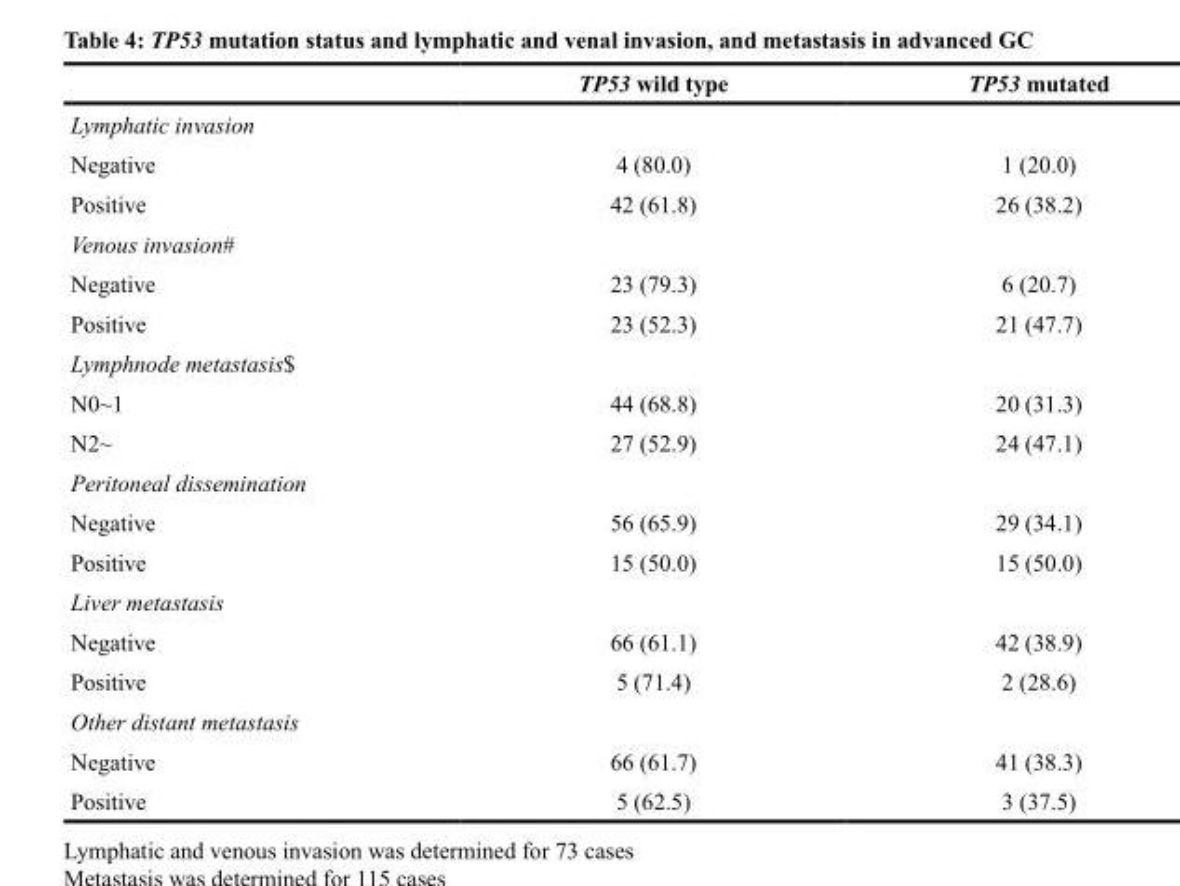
<table><thead><tr><td></td><td>TP53 wild type</td><td>TP53 mutated</td></tr></thead><tbody><tr><td colspan="3">Lymphatic invasion</td></tr><tr><td>Negative</td><td>4 (80.0)</td><td>1 (20.0)</td></tr><tr><td>Positive</td><td>42 (61.8)</td><td>26 (38.2)</td></tr><tr><td colspan="3">Venous invasion#</td></tr><tr><td>Negative</td><td>23 (79.3)</td><td>6 (20.7)</td></tr><tr><td>Positive</td><td>23 (52.3)</td><td>21 (47.7)</td></tr><tr><td colspan="3">Lymphnode metastasis$</td></tr><tr><td>N0~1</td><td>44 (68.8)</td><td>20 (31.3)</td></tr><tr><td>N2~</td><td>27 (52.9)</td><td>24 (47.1)</td></tr><tr><td colspan="3">Peritoneal dissemination</td></tr><tr><td>Negative</td><td>56 (65.9)</td><td>29 (34.1)</td></tr><tr><td>Positive</td><td>15 (50.0)</td><td>15 (50.0)</td></tr><tr><td colspan="3">Liver metastasis</td></tr><tr><td>Negative</td><td>66 (61.1)</td><td>42 (38.9)</td></tr><tr><td>Positive</td><td>5 (71.4)</td><td>2 (28.6)</td></tr><tr><td colspan="3">Other distant metastasis</td></tr><tr><td>Negative</td><td>66 (61.7)</td><td>41 (38.3)</td></tr><tr><td>Positive</td><td>5 (62.5)</td><td>3 (37.5)</td></tr></tbody></table>